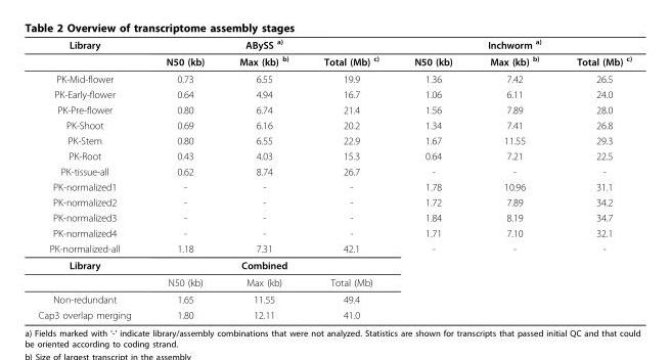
<table><tbody><tr><td rowspan="2">Library</td><td></td><td>ABySS <sup>a)</sup></td><td></td><td></td><td>Inchworm <sup>a)</sup></td><td></td></tr><tr><td>N50 (kb)</td><td>Max (kb) <sup>b)</sup></td><td>Total (Mb) <sup>c)</sup></td><td>N50 (kb)</td><td>Max (kb) <sup>b)</sup></td><td>Total (Mb) <sup>c)</sup></td></tr><tr><td>PK-Mid-flower</td><td>0.73</td><td>6.55</td><td>19.9</td><td>1.36</td><td>7.42</td><td>26.5</td></tr><tr><td>PK-Early-flower</td><td>0.64</td><td>4.94</td><td>16.7</td><td>1.06</td><td>6.11</td><td>24.0</td></tr><tr><td>PK-Pre-flower</td><td>0.80</td><td>6.74</td><td>21.4</td><td>1.56</td><td>7.89</td><td>28.0</td></tr><tr><td>PK-Shoot</td><td>0.69</td><td>6.16</td><td>20.2</td><td>1.34</td><td>7.41</td><td>26.8</td></tr><tr><td>PK-Stem</td><td>0.80</td><td>6.55</td><td>22.9</td><td>1.67</td><td>11.55</td><td>29.3</td></tr><tr><td>PK-Root</td><td>0.43</td><td>4.03</td><td>15.3</td><td>0.64</td><td>7.21</td><td>22.5</td></tr><tr><td>PK-tissue-all</td><td>0.62</td><td>8.74</td><td>26.7</td><td>-</td><td>-</td><td>-</td></tr><tr><td>PK-normalized1</td><td>-</td><td>-</td><td>-</td><td>1.78</td><td>10.96</td><td>31.1</td></tr><tr><td>PK-normalized2</td><td>-</td><td>-</td><td>-</td><td>1.72</td><td>7.89</td><td>34.2</td></tr><tr><td>PK-normalized3</td><td>-</td><td>-</td><td>-</td><td>1.84</td><td>8.19</td><td>34.7</td></tr><tr><td>PK-normalized4</td><td>-</td><td>-</td><td>-</td><td>1.71</td><td>7.10</td><td>32.1</td></tr><tr><td>PK-normalized-all</td><td>1.18</td><td>7.31</td><td>42.1</td><td>-</td><td>-</td><td>-</td></tr><tr><td rowspan="2">Library</td><td></td><td>Combined</td><td></td><td></td><td></td><td></td></tr><tr><td>N50 (kb)</td><td>Max (kb)</td><td>Total (Mb)</td><td></td><td></td><td></td></tr><tr><td>Non-redundant</td><td>1.65</td><td>11.55</td><td>49.4</td><td></td><td></td><td></td></tr><tr><td>Cap3 overlap merging</td><td>1.80</td><td>12.11</td><td>41.0</td><td></td><td></td><td></td></tr></tbody></table>